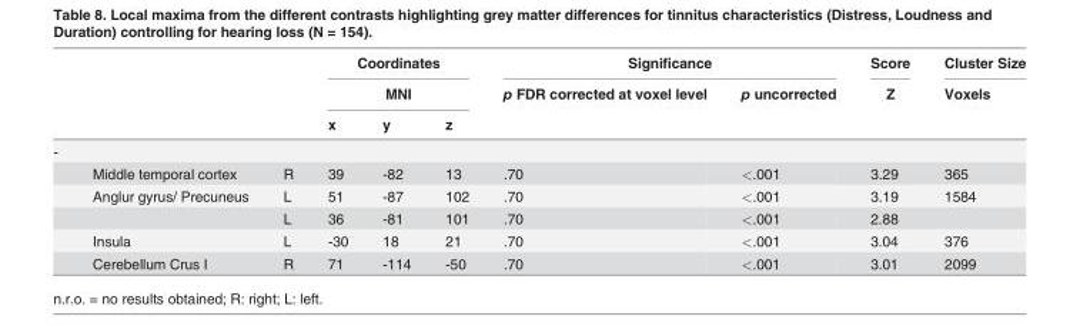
<table><thead><tr><td rowspan="3"></td><td rowspan="3"></td><td rowspan="3"></td><td rowspan="2" colspan="3">Coordinates MNI</td><td colspan="2">Significance</td><td rowspan="3">Score Z</td><td rowspan="3">Cluster Size Voxels</td></tr><tr><td rowspan="2">p FDR corrected at voxel level</td><td rowspan="2">p uncorrected</td></tr><tr><td>x</td><td>y</td><td>z</td></tr></thead><tbody><tr><td colspan="10">-</td></tr><tr><td></td><td>Middle temporal cortex</td><td>R</td><td>39</td><td>-82</td><td>13</td><td>.70</td><td>&lt;.001</td><td>3.29</td><td>365</td></tr><tr><td></td><td>Anglur gyrus/ Precuneus</td><td>L</td><td>51</td><td>-87</td><td>102</td><td>.70</td><td>&lt;.001</td><td>3.19</td><td>1584</td></tr><tr><td></td><td></td><td>L</td><td>36</td><td>-81</td><td>101</td><td>.70</td><td>&lt;.001</td><td>2.88</td><td></td></tr><tr><td></td><td>Insula</td><td>L</td><td>-30</td><td>18</td><td>21</td><td>.70</td><td>&lt;.001</td><td>3.04</td><td>376</td></tr><tr><td></td><td>Cerebellum Crus I</td><td>R</td><td>71</td><td>-114</td><td>-50</td><td>.70</td><td>&lt;.001</td><td>3.01</td><td>2099</td></tr></tbody></table>